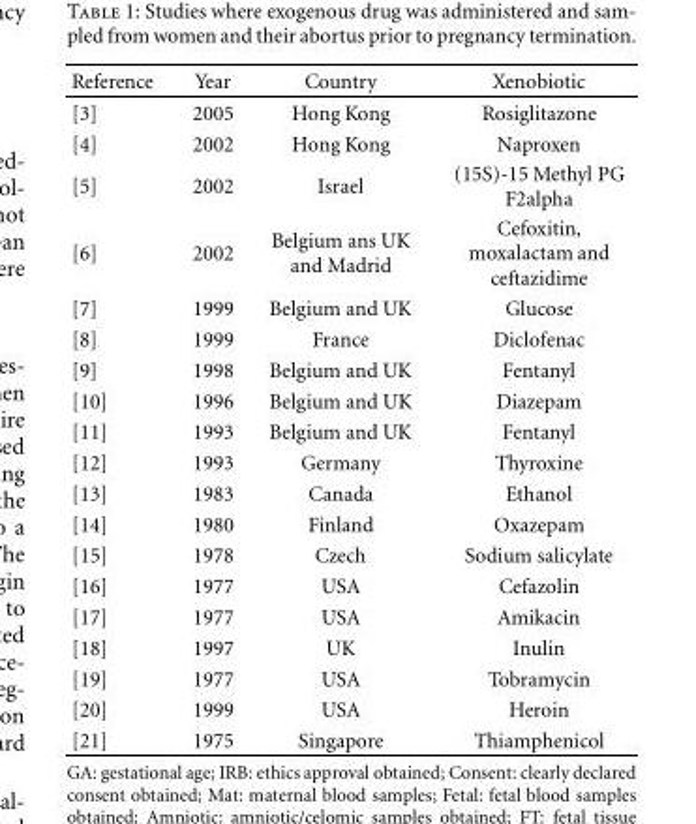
<table><thead><tr><td>Reference</td><td>Year</td><td>Country</td><td>Xenobiotic</td></tr></thead><tbody><tr><td>[3]</td><td>2005</td><td>Hong Kong</td><td>Rosiglitazone</td></tr><tr><td>[4]</td><td>2002</td><td>Hong Kong</td><td>Naproxen</td></tr><tr><td>[5]</td><td>2002</td><td>Israel</td><td>(15S)-15 Methyl PG F2alpha</td></tr><tr><td>[6]</td><td>2002</td><td>Belgium ans UK and Madrid</td><td>Cefoxitin, moxalactam and ceftazidime</td></tr><tr><td>[7]</td><td>1999</td><td>Belgium and UK</td><td>Glucose</td></tr><tr><td>[8]</td><td>1999</td><td>France</td><td>Diclofenac</td></tr><tr><td>[9]</td><td>1998</td><td>Belgium and UK</td><td>Fentanyl</td></tr><tr><td>[10]</td><td>1996</td><td>Belgium and UK</td><td>Diazepam</td></tr><tr><td>[11]</td><td>1993</td><td>Belgium and UK</td><td>Fentanyl</td></tr><tr><td>[12]</td><td>1993</td><td>Germany</td><td>Thyroxine</td></tr><tr><td>[13]</td><td>1983</td><td>Canada</td><td>Ethanol</td></tr><tr><td>[14]</td><td>1980</td><td>Finland</td><td>Oxazepam</td></tr><tr><td>[15]</td><td>1978</td><td>Czech</td><td>Sodium salicylate</td></tr><tr><td>[16]</td><td>1977</td><td>USA</td><td>Cefazolin</td></tr><tr><td>[17]</td><td>1977</td><td>USA</td><td>Amikacin</td></tr><tr><td>[18]</td><td>1997</td><td>UK</td><td>Inulin</td></tr><tr><td>[19]</td><td>1977</td><td>USA</td><td>Tobramycin</td></tr><tr><td>[20]</td><td>1999</td><td>USA</td><td>Heroin</td></tr><tr><td>[21]</td><td>1975</td><td>Singapore</td><td>Thiamphenicol</td></tr></tbody></table>